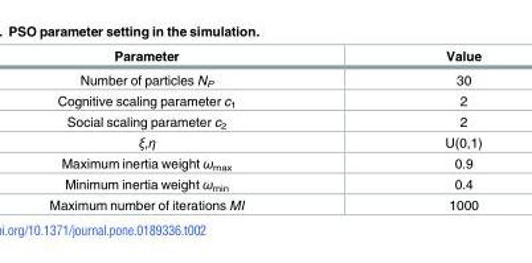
<table><thead><tr><td>Parameter</td><td>Value</td></tr></thead><tbody><tr><td>Number of particles N<sub>P</sub></td><td>30</td></tr><tr><td>Cognitive scaling parameter c<sub>1</sub></td><td>2</td></tr><tr><td>Social scaling parameter c<sub>2</sub></td><td>2</td></tr><tr><td>ξ,η</td><td>U(0,1)</td></tr><tr><td>Maximum inertia weight ω<sub>max</sub></td><td>0.9</td></tr><tr><td>Minimum inertia weight ω<sub>min</sub></td><td>0.4</td></tr><tr><td>Maximum number of iterations MI</td><td>1000</td></tr></tbody></table>